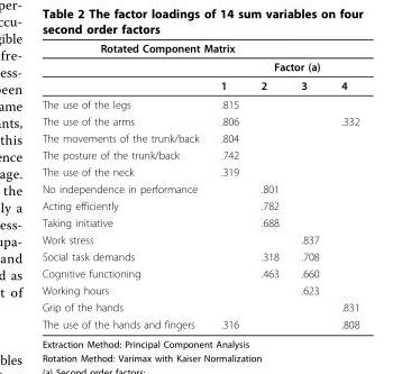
<table><thead><tr><td colspan="3">Rotated Component Matrix</td><td></td><td></td></tr><tr><td rowspan="2"></td><td colspan="4">Factor (a)</td></tr><tr><td>1</td><td>2</td><td>3</td><td>4</td></tr></thead><tbody><tr><td>The use of the legs</td><td>.815</td><td></td><td></td><td></td></tr><tr><td>The use of the arms</td><td>.806</td><td></td><td></td><td>.332</td></tr><tr><td>The movements of the trunk/back</td><td>.804</td><td></td><td></td><td></td></tr><tr><td>The posture of the trunk/back</td><td>.742</td><td></td><td></td><td></td></tr><tr><td>The use of the neck</td><td>.319</td><td></td><td></td><td></td></tr><tr><td>No independence in performance</td><td></td><td>.801</td><td></td><td></td></tr><tr><td>Acting efficiently</td><td></td><td>.782</td><td></td><td></td></tr><tr><td>Taking initiative</td><td></td><td>.688</td><td></td><td></td></tr><tr><td>Work stress</td><td></td><td></td><td>.837</td><td></td></tr><tr><td>Social task demands</td><td></td><td>.318</td><td>.708</td><td></td></tr><tr><td>Cognitive functioning</td><td></td><td>.463</td><td>.660</td><td></td></tr><tr><td>Working hours</td><td></td><td></td><td>.623</td><td></td></tr><tr><td>Grip of the hands</td><td></td><td></td><td></td><td>.831</td></tr><tr><td>The use of the hands and fingers</td><td>.316</td><td></td><td></td><td>.808</td></tr></tbody></table>